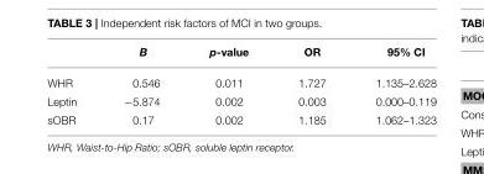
<table><thead><tr><td></td><td>B</td><td>p-value</td><td>OR</td><td>95% CI</td></tr></thead><tbody><tr><td>WHR</td><td>0.546</td><td>0.011</td><td>1.727</td><td>1.135–2.628</td></tr><tr><td>Leptin</td><td>−5.874</td><td>0.002</td><td>0.003</td><td>0.000–0.119</td></tr><tr><td>sOBR</td><td>0.17</td><td>0.002</td><td>1.185</td><td>1.062–1.323</td></tr></tbody></table>